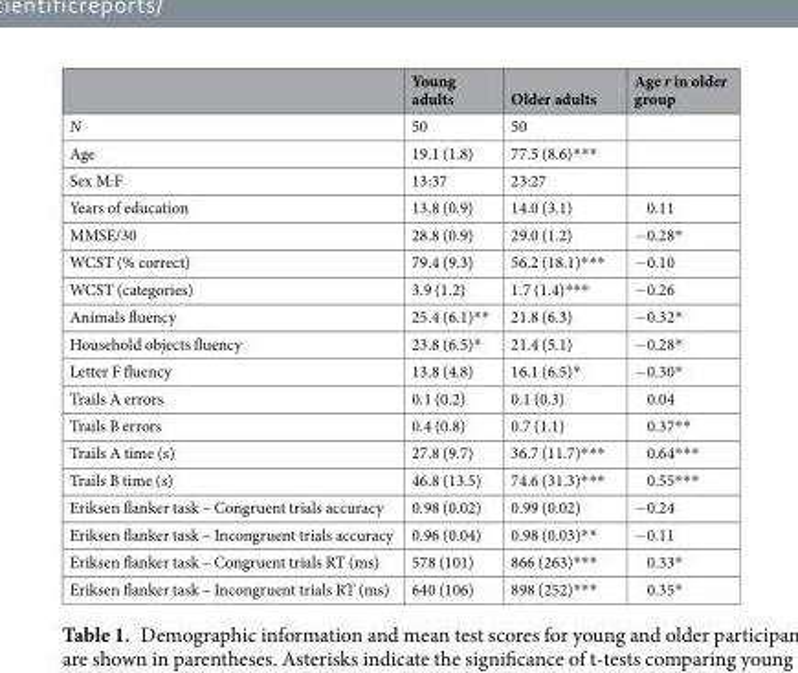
<table><thead><tr><td></td><td>Young adults</td><td>Older adults</td><td>Age r in older group</td></tr></thead><tbody><tr><td>N</td><td>50</td><td>50</td><td></td></tr><tr><td>Age</td><td>19.1 (1.8)</td><td>77.5 (8.6)***</td><td></td></tr><tr><td>Sex M:F</td><td>13:37</td><td>23:27</td><td></td></tr><tr><td>Years of education</td><td>13.8 (0.9)</td><td>14.0 (3.1)</td><td>0.11</td></tr><tr><td>MMSE/30</td><td>28.8 (0.9)</td><td>29.0 (1.2)</td><td>−0.28*</td></tr><tr><td>WCST (% correct)</td><td>79.4 (9.3)</td><td>56.2 (18.1)***</td><td>−0.10</td></tr><tr><td>WCST (categories)</td><td>3.9 (1.2)</td><td>1.7 (1.4)***</td><td>−0.26</td></tr><tr><td>Animals fluency</td><td>25.4 (6.1)**</td><td>21.8 (6.3)</td><td>−0.32*</td></tr><tr><td>Household objects fluency</td><td>23.8 (6.5)*</td><td>21.4 (5.1)</td><td>−0.28*</td></tr><tr><td>Letter F fluency</td><td>13.8 (4.8)</td><td>16.1 (6.5)*</td><td>−0.30*</td></tr><tr><td>Trails A errors</td><td>0.1 (0.2)</td><td>0.1 (0.3)</td><td>0.04</td></tr><tr><td>Trails B errors</td><td>0.4 (0.8)</td><td>0.7 (1.1)</td><td>0.37**</td></tr><tr><td>Trails A time (s)</td><td>27.8 (9.7)</td><td>36.7 (11.7)***</td><td>0.64***</td></tr><tr><td>Trails B time (s)</td><td>46.8 (13.5)</td><td>74.6 (31.3)***</td><td>0.55***</td></tr><tr><td>Eriksen flanker task – Congruent trials accuracy</td><td>0.98 (0.02)</td><td>0.99 (0.02)</td><td>−0.24</td></tr><tr><td>Eriksen flanker task – Incongruent trials accuracy</td><td>0.96 (0.04)</td><td>0.98 (0.03)**</td><td>−0.11</td></tr><tr><td>Eriksen flanker task – Congruent trials RT (ms)</td><td>578 (101)</td><td>866 (263)***</td><td>0.33*</td></tr><tr><td>Eriksen flanker task – Incongruent trials RT (ms)</td><td>640 (106)</td><td>898 (252)***</td><td>0.35*</td></tr></tbody></table>